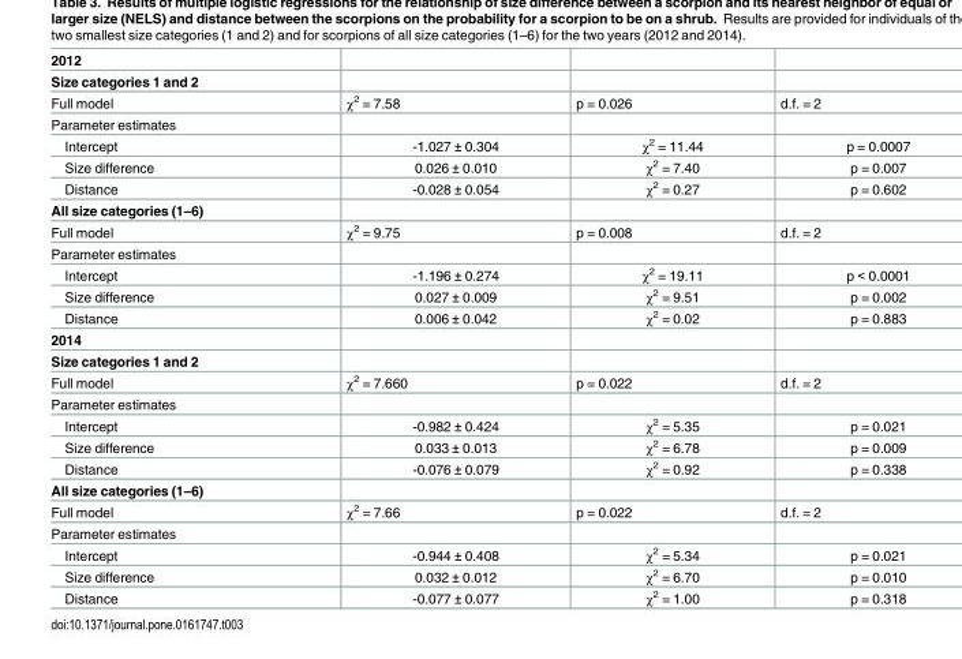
<table><tbody><tr><td colspan="4">2012</td></tr><tr><td colspan="4">Size categories 1 and 2</td></tr><tr><td>Full model</td><td>χ<sup>2</sup> = 7.58</td><td>p = 0.026</td><td>d.f. = 2</td></tr><tr><td colspan="4">Parameter estimates</td></tr><tr><td>Intercept</td><td>-1.027 ± 0.304</td><td>χ<sup>2</sup> = 11.44</td><td>p = 0.0007</td></tr><tr><td>Size difference</td><td>0.026 ± 0.010</td><td>χ<sup>2</sup> = 7.40</td><td>p = 0.007</td></tr><tr><td>Distance</td><td>-0.028 ± 0.054</td><td>χ<sup>2</sup> = 0.27</td><td>p = 0.602</td></tr><tr><td colspan="4">All size categories (1–6)</td></tr><tr><td>Full model</td><td>χ<sup>2</sup> = 9.75</td><td>p = 0.008</td><td>d.f. = 2</td></tr><tr><td colspan="4">Parameter estimates</td></tr><tr><td>Intercept</td><td>-1.196 ± 0.274</td><td>χ<sup>2</sup> = 19.11</td><td>p &lt; 0.0001</td></tr><tr><td>Size difference</td><td>0.027 ± 0.009</td><td>χ<sup>2</sup> = 9.51</td><td>p = 0.002</td></tr><tr><td>Distance</td><td>0.006 ± 0.042</td><td>χ<sup>2</sup> = 0.02</td><td>p = 0.883</td></tr><tr><td colspan="4">2014</td></tr><tr><td colspan="4">Size categories 1 and 2</td></tr><tr><td>Full model</td><td>χ<sup>2</sup> = 7.660</td><td>p = 0.022</td><td>d.f. = 2</td></tr><tr><td colspan="4">Parameter estimates</td></tr><tr><td>Intercept</td><td>-0.982 ± 0.424</td><td>χ<sup>2</sup> = 5.35</td><td>p = 0.021</td></tr><tr><td>Size difference</td><td>0.033 ± 0.013</td><td>χ<sup>2</sup> = 6.78</td><td>p = 0.009</td></tr><tr><td>Distance</td><td>-0.076 ± 0.079</td><td>χ<sup>2</sup> = 0.92</td><td>p = 0.338</td></tr><tr><td colspan="4">All size categories (1–6)</td></tr><tr><td>Full model</td><td>χ<sup>2</sup> = 7.66</td><td>p = 0.022</td><td>d.f. = 2</td></tr><tr><td colspan="4">Parameter estimates</td></tr><tr><td>Intercept</td><td>-0.944 ± 0.408</td><td>χ<sup>2</sup> = 5.34</td><td>p = 0.021</td></tr><tr><td>Size difference</td><td>0.032 ± 0.012</td><td>χ<sup>2</sup> = 6.70</td><td>p = 0.010</td></tr><tr><td>Distance</td><td>-0.077 ± 0.077</td><td>χ<sup>2</sup> = 1.00</td><td>p = 0.318</td></tr></tbody></table>